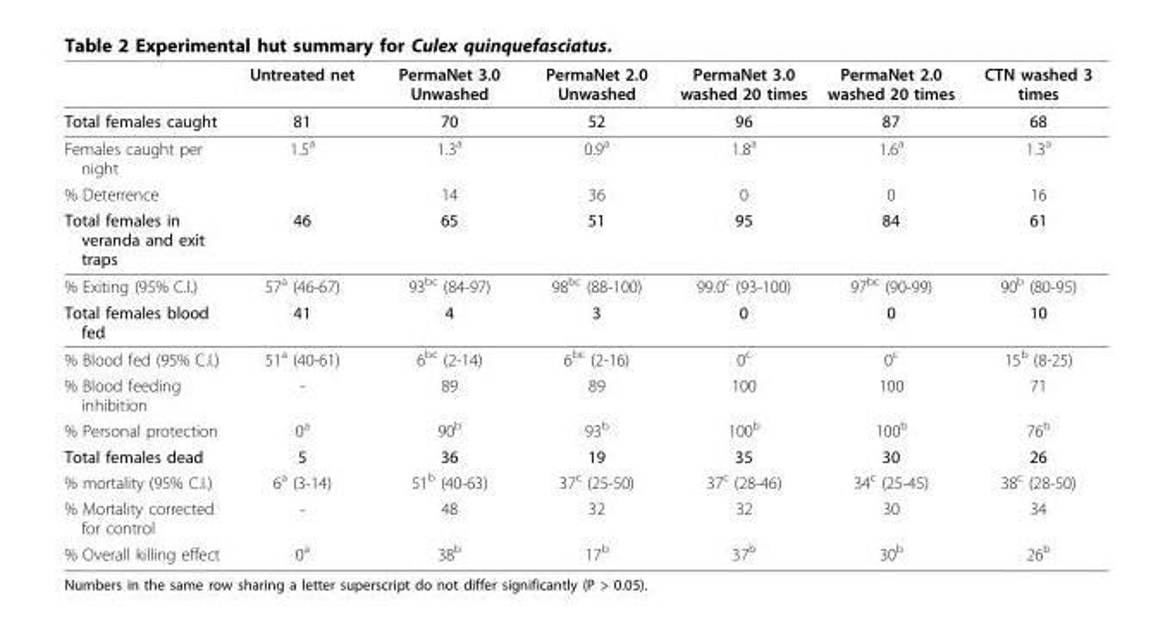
<table><thead><tr><td></td><td>Untreated net</td><td>PermaNet 3.0 Unwashed</td><td>PermaNet 2.0 Unwashed</td><td>PermaNet 3.0 washed 20 times</td><td>PermaNet 2.0 washed 20 times</td><td>CTN washed 3 times</td></tr></thead><tbody><tr><td>Total females caught</td><td>81</td><td>70</td><td>52</td><td>96</td><td>87</td><td>68</td></tr><tr><td>Females caught per night</td><td>1.5<sup>a</sup></td><td>1.3<sup>a</sup></td><td>0.9<sup>a</sup></td><td>1.8<sup>a</sup></td><td>1.6<sup>a</sup></td><td>1.3<sup>a</sup></td></tr><tr><td>% Deterrence</td><td></td><td>14</td><td>36</td><td>0</td><td>0</td><td>16</td></tr><tr><td>Total females in veranda and exit traps</td><td>46</td><td>65</td><td>51</td><td>95</td><td>84</td><td>61</td></tr><tr><td>% Exiting (95% C.I.)</td><td>57<sup>a</sup> (46-67)</td><td>93<sup>bc</sup> (84-97)</td><td>98<sup>bc</sup> (88-100)</td><td>99.0<sup>c</sup> (93-100)</td><td>97<sup>bc</sup> (90-99)</td><td>90<sup>b</sup> (80-95)</td></tr><tr><td>Total females blood fed</td><td>41</td><td>4</td><td>3</td><td>0</td><td>0</td><td>10</td></tr><tr><td>% Blood fed (95% C.I.)</td><td>51<sup>a</sup> (40-61)</td><td>6<sup>bc</sup> (2-14)</td><td>6<sup>bc</sup> (2-16)</td><td>0<sup>c</sup></td><td>0<sup>c</sup></td><td>15<sup>b</sup> (8-25)</td></tr><tr><td>% Blood feeding inhibition</td><td>-</td><td>89</td><td>89</td><td>100</td><td>100</td><td>71</td></tr><tr><td>% Personal protection</td><td>0<sup>a</sup></td><td>90<sup>b</sup></td><td>93<sup>b</sup></td><td>100<sup>b</sup></td><td>100<sup>b</sup></td><td>76<sup>b</sup></td></tr><tr><td>Total females dead</td><td>5</td><td>36</td><td>19</td><td>35</td><td>30</td><td>26</td></tr><tr><td>% mortality (95% C.I.)</td><td>6<sup>a</sup> (3-14)</td><td>51<sup>b</sup> (40-63)</td><td>37<sup>c</sup> (25-50)</td><td>37<sup>c</sup> (28-46)</td><td>34<sup>c</sup> (25-45)</td><td>38<sup>c</sup> (28-50)</td></tr><tr><td>% Mortality corrected for control</td><td>-</td><td>48</td><td>32</td><td>32</td><td>30</td><td>34</td></tr><tr><td>% Overall killing effect</td><td>0<sup>a</sup></td><td>38<sup>b</sup></td><td>17<sup>b</sup></td><td>37<sup>b</sup></td><td>30<sup>b</sup></td><td>26<sup>b</sup></td></tr></tbody></table>